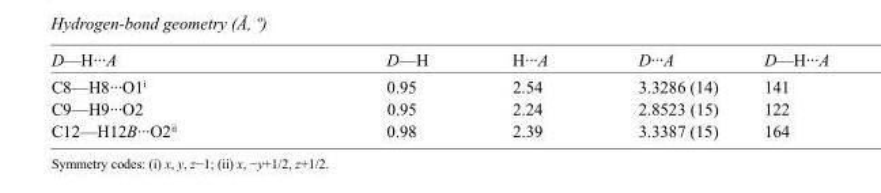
<table><tbody><tr><td>D—H···A</td><td>D—H</td><td>H···A</td><td>D···A</td><td>D—H···A</td></tr><tr><td>C8—H8···O1<sup>i</sup></td><td>0.95</td><td>2.54</td><td>3.3286 (14)</td><td>141</td></tr><tr><td>C9—H9···O2</td><td>0.95</td><td>2.24</td><td>2.8523 (15)</td><td>122</td></tr><tr><td>C12—H12B···O2<sup>ii</sup></td><td>0.98</td><td>2.39</td><td>3.3387 (15)</td><td>164</td></tr></tbody></table>